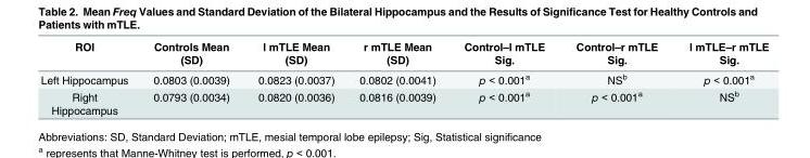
<table><thead><tr><td>ROI</td><td>Controls Mean (SD)</td><td>l mTLE Mean (SD)</td><td>r mTLE Mean (SD)</td><td>Control–l mTLE Sig.</td><td>Control–r mTLE Sig.</td><td>l mTLE–r mTLE Sig.</td></tr></thead><tbody><tr><td>Left Hippocampus</td><td>0.0803 (0.0039)</td><td>0.0823 (0.0037)</td><td>0.0802 (0.0041)</td><td>p &lt; 0.001<sup>a</sup></td><td>NS<sup>b</sup></td><td>p &lt; 0.001<sup>a</sup></td></tr><tr><td>Right Hippocampus</td><td>0.0793 (0.0034)</td><td>0.0820 (0.0036)</td><td>0.0816 (0.0039)</td><td>p &lt; 0.001<sup>a</sup></td><td>p &lt; 0.001<sup>a</sup></td><td>NS<sup>b</sup></td></tr></tbody></table>